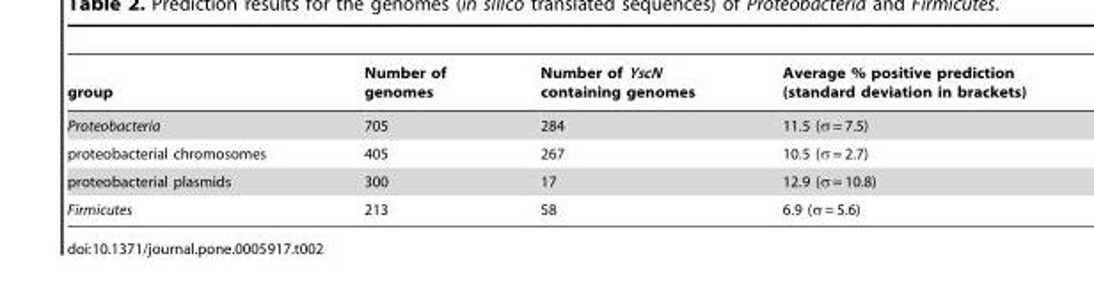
<table><thead><tr><td>group</td><td>Number of genomes</td><td>Number of YscN containing genomes</td><td>Average % positive prediction (standard deviation in brackets)</td></tr></thead><tbody><tr><td>Proteobacteria</td><td>705</td><td>284</td><td>11.5 (σ = 7.5)</td></tr><tr><td>proteobacterial chromosomes</td><td>405</td><td>267</td><td>10.5 (σ = 2.7)</td></tr><tr><td>proteobacterial plasmids</td><td>300</td><td>17</td><td>12.9 (σ = 10.8)</td></tr><tr><td>Firmicutes</td><td>213</td><td>58</td><td>6.9 (σ = 5.6)</td></tr></tbody></table>